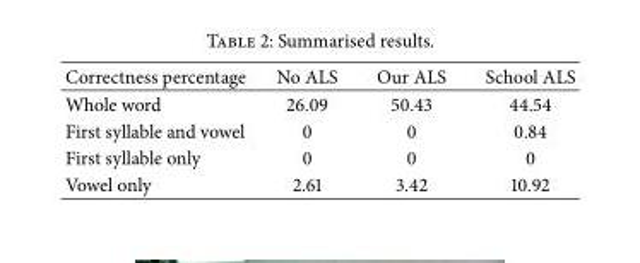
<table><thead><tr><td>Correctness percentage</td><td>No ALS</td><td>Our ALS</td><td>School ALS</td></tr></thead><tbody><tr><td>Whole word</td><td>26.09</td><td>50.43</td><td>44.54</td></tr><tr><td>First syllable and vowel</td><td>0</td><td>0</td><td>0.84</td></tr><tr><td>First syllable only</td><td>0</td><td>0</td><td>0</td></tr><tr><td>Vowel only</td><td>2.61</td><td>3.42</td><td>10.92</td></tr></tbody></table>